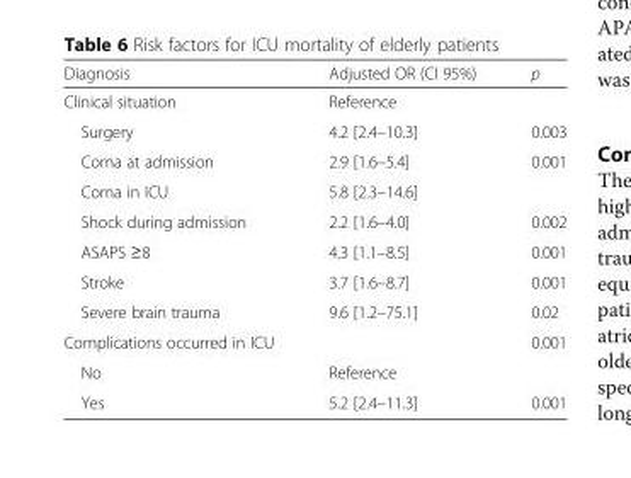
<table><thead><tr><td>Diagnosis</td><td>Adjusted OR (CI 95%)</td><td>p</td></tr></thead><tbody><tr><td>Clinical situation</td><td>Reference</td><td></td></tr><tr><td>Surgery</td><td>4.2 [2.4–10.3]</td><td>0.003</td></tr><tr><td>Coma at admission</td><td>2.9 [1.6–5.4]</td><td>0.001</td></tr><tr><td>Coma in ICU</td><td>5.8 [2.3–14.6]</td><td></td></tr><tr><td>Shock during admission</td><td>2.2 [1.6–4.0]</td><td>0.002</td></tr><tr><td>ASAPS ≥8</td><td>4.3 [1.1–8.5]</td><td>0.001</td></tr><tr><td>Stroke</td><td>3.7 [1.6–8.7]</td><td>0.001</td></tr><tr><td>Severe brain trauma</td><td>9.6 [1.2–75.1]</td><td>0.02</td></tr><tr><td>Complications occurred in ICU</td><td></td><td>0.001</td></tr><tr><td>No</td><td>Reference</td><td></td></tr><tr><td>Yes</td><td>5.2 [2.4–11.3]</td><td>0.001</td></tr></tbody></table>